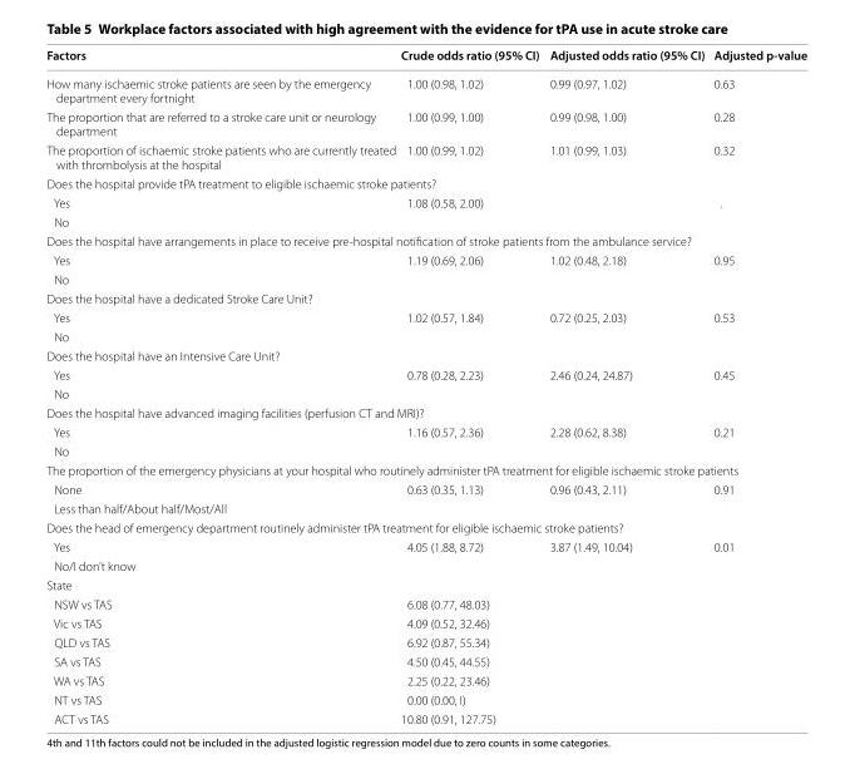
<table><thead><tr><td>Factors</td><td>Crude odds ratio (95% CI)</td><td>Adjusted odds ratio (95% CI)</td><td>Adjusted p-value</td></tr></thead><tbody><tr><td>How many ischaemic stroke patients are seen by the emergency department every fortnight</td><td>1.00 (0.98, 1.02)</td><td>0.99 (0.97, 1.02)</td><td>0.63</td></tr><tr><td>The proportion that are referred to a stroke care unit or neurology department</td><td>1.00 (0.99, 1.00)</td><td>0.99 (0.98, 1.00)</td><td>0.28</td></tr><tr><td>The proportion of ischaemic stroke patients who are currently treated with thrombolysis at the hospital</td><td>1.00 (0.99, 1.02)</td><td>1.01 (0.99, 1.03)</td><td>0.32</td></tr><tr><td colspan="4">Does the hospital provide tPA treatment to eligible ischaemic stroke patients?</td></tr><tr><td>Yes</td><td>1.08 (0.58, 2.00)</td><td></td><td>.</td></tr><tr><td colspan="4">No</td></tr><tr><td colspan="4">Does the hospital have arrangements in place to receive pre‑hospital notification of stroke patients from the ambulance service?</td></tr><tr><td>Yes</td><td>1.19 (0.69, 2.06)</td><td>1.02 (0.48, 2.18)</td><td>0.95</td></tr><tr><td colspan="4">No</td></tr><tr><td colspan="4">Does the hospital have a dedicated Stroke Care Unit?</td></tr><tr><td>Yes</td><td>1.02 (0.57, 1.84)</td><td>0.72 (0.25, 2.03)</td><td>0.53</td></tr><tr><td colspan="4">No</td></tr><tr><td colspan="4">Does the hospital have an Intensive Care Unit?</td></tr><tr><td>Yes</td><td>0.78 (0.28, 2.23)</td><td>2.46 (0.24, 24.87)</td><td>0.45</td></tr><tr><td colspan="4">No</td></tr><tr><td colspan="4">Does the hospital have advanced imaging facilities (perfusion CT and MRI)?</td></tr><tr><td>Yes</td><td>1.16 (0.57, 2.36)</td><td>2.28 (0.62, 8.38)</td><td>0.21</td></tr><tr><td colspan="4">No</td></tr><tr><td colspan="4">The proportion of the emergency physicians at your hospital who routinely administer tPA treatment for eligible ischaemic stroke patients</td></tr><tr><td>None</td><td>0.63 (0.35, 1.13)</td><td>0.96 (0.43, 2.11)</td><td>0.91</td></tr><tr><td colspan="4">Less than half/About half/Most/All</td></tr><tr><td colspan="4">Does the head of emergency department routinely administer tPA treatment for eligible ischaemic stroke patients?</td></tr><tr><td>Yes</td><td>4.05 (1.88, 8.72)</td><td>3.87 (1.49, 10.04)</td><td>0.01</td></tr><tr><td colspan="4">No/I don’t know</td></tr><tr><td colspan="4">State</td></tr><tr><td>NSW vs TAS</td><td>6.08 (0.77, 48.03)</td><td></td><td></td></tr><tr><td>Vic vs TAS</td><td>4.09 (0.52, 32.46)</td><td></td><td></td></tr><tr><td>QLD vs TAS</td><td>6.92 (0.87, 55.34)</td><td></td><td></td></tr><tr><td>SA vs TAS</td><td>4.50 (0.45, 44.55)</td><td></td><td></td></tr><tr><td>WA vs TAS</td><td>2.25 (0.22, 23.46)</td><td></td><td></td></tr><tr><td>NT vs TAS</td><td>0.00 (0.00, I)</td><td></td><td></td></tr><tr><td>ACT vs TAS</td><td>10.80 (0.91, 127.75)</td><td></td><td></td></tr></tbody></table>